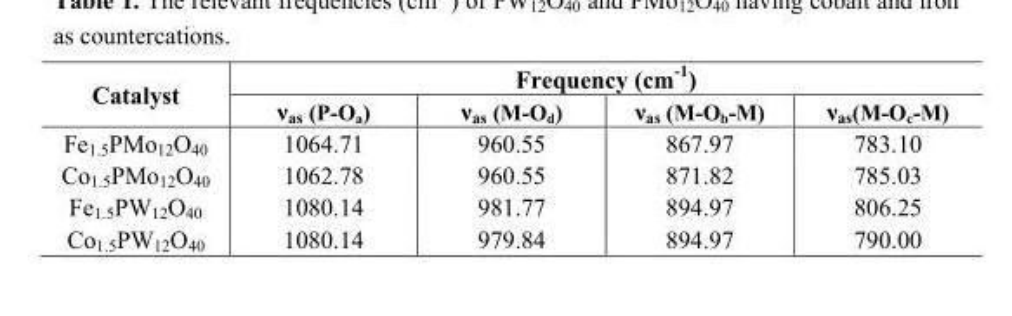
<table><thead><tr><td rowspan="2">Catalyst</td><td colspan="4">Frequency (cm<sup>-1</sup>)</td></tr><tr><td>ν<sub>as</sub> (P-O<sub>a</sub>)</td><td>ν<sub>as</sub> (M-O<sub>d</sub>)</td><td>ν<sub>as</sub> (M-O<sub>b</sub>-M)</td><td>ν<sub>as</sub>(M-O<sub>c</sub>-M)</td></tr></thead><tbody><tr><td>Fe<sub>1.5</sub>PMo<sub>12</sub>O<sub>40</sub></td><td>1064.71</td><td>960.55</td><td>867.97</td><td>783.10</td></tr><tr><td>Co<sub>1.5</sub>PMo<sub>12</sub>O<sub>40</sub></td><td>1062.78</td><td>960.55</td><td>871.82</td><td>785.03</td></tr><tr><td>Fe<sub>1.5</sub>PW<sub>12</sub>O<sub>40</sub></td><td>1080.14</td><td>981.77</td><td>894.97</td><td>806.25</td></tr><tr><td>Co<sub>1.5</sub>PW<sub>12</sub>O<sub>40</sub></td><td>1080.14</td><td>979.84</td><td>894.97</td><td>790.00</td></tr></tbody></table>